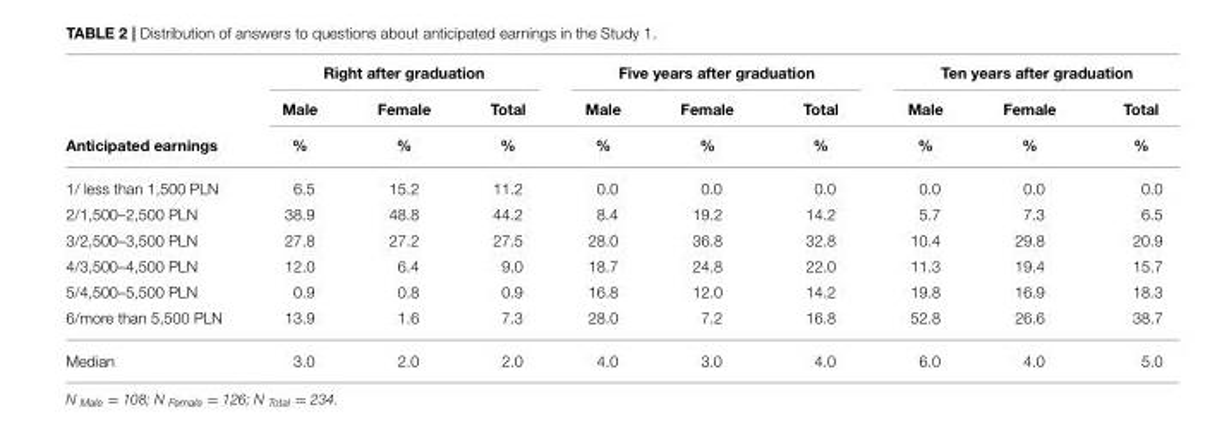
<table><thead><tr><td rowspan="3">Anticipated earnings</td><td colspan="3">Right after graduation</td><td colspan="3">Five years after graduation</td><td colspan="3">Ten years after graduation</td></tr><tr><td rowspan="2">Male %</td><td rowspan="2">Female %</td><td rowspan="2">Total %</td><td rowspan="2">Male %</td><td rowspan="2">Female %</td><td rowspan="2">Total %</td><td rowspan="2">Male %</td><td rowspan="2">Female %</td><td rowspan="2">Total %</td></tr><tr></tr></thead><tbody><tr><td>1/ less than 1,500 PLN</td><td>6.5</td><td>15.2</td><td>11.2</td><td>0.0</td><td>0.0</td><td>0.0</td><td>0.0</td><td>0.0</td><td>0.0</td></tr><tr><td>2/1,500–2,500 PLN</td><td>38.9</td><td>48.8</td><td>44.2</td><td>8.4</td><td>19.2</td><td>14.2</td><td>5.7</td><td>7.3</td><td>6.5</td></tr><tr><td>3/2,500–3,500 PLN</td><td>27.8</td><td>27.2</td><td>27.5</td><td>28.0</td><td>36.8</td><td>32.8</td><td>10.4</td><td>29.8</td><td>20.9</td></tr><tr><td>4/3,500–4,500 PLN</td><td>12.0</td><td>6.4</td><td>9.0</td><td>18.7</td><td>24.8</td><td>22.0</td><td>11.3</td><td>19.4</td><td>15.7</td></tr><tr><td>5/4,500–5,500 PLN</td><td>0.9</td><td>0.8</td><td>0.9</td><td>16.8</td><td>12.0</td><td>14.2</td><td>19.8</td><td>16.9</td><td>18.3</td></tr><tr><td>6/more than 5,500 PLN</td><td>13.9</td><td>1.6</td><td>7.3</td><td>28.0</td><td>7.2</td><td>16.8</td><td>52.8</td><td>26.6</td><td>38.7</td></tr><tr><td>Median</td><td>3.0</td><td>2.0</td><td>2.0</td><td>4.0</td><td>3.0</td><td>4.0</td><td>6.0</td><td>4.0</td><td>5.0</td></tr></tbody></table>